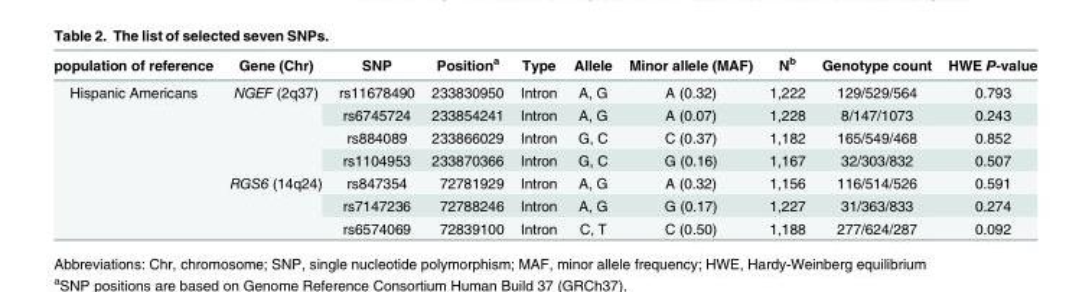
<table><thead><tr><td>population of reference</td><td>Gene (Chr)</td><td>SNP</td><td>Position<sup>a</sup></td><td>Type</td><td>Allele</td><td>Minor allele (MAF)</td><td>N<sup>b</sup></td><td>Genotype count</td><td>HWE P-value</td></tr></thead><tbody><tr><td rowspan="7">Hispanic Americans</td><td rowspan="4">NGEF (2q37)</td><td>rs11678490</td><td>233830950</td><td>Intron</td><td>A, G</td><td>A (0.32)</td><td>1,222</td><td>129/529/564</td><td>0.793</td></tr><tr><td>rs6745724</td><td>233854241</td><td>Intron</td><td>A, G</td><td>A (0.07)</td><td>1,228</td><td>8/147/1073</td><td>0.243</td></tr><tr><td>rs884089</td><td>233866029</td><td>Intron</td><td>G, C</td><td>C (0.37)</td><td>1,182</td><td>165/549/468</td><td>0.852</td></tr><tr><td>rs1104953</td><td>233870366</td><td>Intron</td><td>G, C</td><td>G (0.16)</td><td>1,167</td><td>32/303/832</td><td>0.507</td></tr><tr><td rowspan="3">RGS6 (14q24)</td><td>rs847354</td><td>72781929</td><td>Intron</td><td>A, G</td><td>A (0.32)</td><td>1,156</td><td>116/514/526</td><td>0.591</td></tr><tr><td>rs7147236</td><td>72788246</td><td>Intron</td><td>A, G</td><td>G (0.17)</td><td>1,227</td><td>31/363/833</td><td>0.274</td></tr><tr><td>rs6574069</td><td>72839100</td><td>Intron</td><td>C, T</td><td>C (0.50)</td><td>1,188</td><td>277/624/287</td><td>0.092</td></tr></tbody></table>